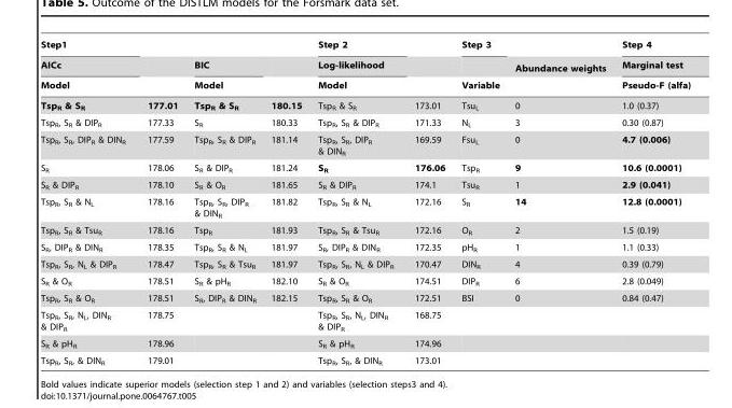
<table><thead><tr><td rowspan="3">Step1 AICc Model</td><td rowspan="3"></td><td rowspan="3">BIC Model</td><td rowspan="3"></td><td rowspan="3">Step 2 Log-likelihood Model</td><td rowspan="3"></td><td rowspan="3">Step 3 Variable</td><td rowspan="3">Abundance weights</td><td rowspan="3">Step 4 Marginal test Pseudo-F (alfa)</td></tr><tr></tr><tr></tr></thead><tbody><tr><td>TspR &amp; SR</td><td>177.01</td><td>Tsp<sub>R</sub> &amp; S<sub>R</sub></td><td>180.15</td><td>Tsp<sub>R</sub> &amp; S<sub>R</sub></td><td>173.01</td><td>Tsu<sub>L</sub></td><td>0</td><td>1.0 (0.37)</td></tr><tr><td>Tsp<sub>R</sub>, S<sub>R</sub> &amp; DIP<sub>R</sub></td><td>177.33</td><td>S<sub>R</sub></td><td>180.33</td><td>Tsp<sub>R</sub>, S<sub>R</sub> &amp; DIP<sub>R</sub></td><td>171.33</td><td>N<sub>L</sub></td><td>3</td><td>0.30 (0.87)</td></tr><tr><td>Tsp<sub>R</sub>, S<sub>R</sub>, DIP<sub>R</sub> &amp; DIN<sub>R</sub></td><td>177.59</td><td>Tsp<sub>R</sub>, S<sub>R</sub> &amp; DIP<sub>R</sub></td><td>181.14</td><td>Tsp<sub>R</sub>, S<sub>R</sub>, DIP<sub>R</sub> &amp; DIN<sub>R</sub></td><td>169.59</td><td>Fsu<sub>L</sub></td><td>0</td><td>4.7 (0.006)</td></tr><tr><td>S<sub>R</sub></td><td>178.06</td><td>S<sub>R</sub> &amp; DIP<sub>R</sub></td><td>181.24</td><td>S<sub>R</sub></td><td>176.06</td><td>Tsp<sub>R</sub></td><td>9</td><td>10.6 (0.0001)</td></tr><tr><td>S<sub>R</sub> &amp; DIP<sub>R</sub></td><td>178.10</td><td>S<sub>R</sub> &amp; O<sub>R</sub></td><td>181.65</td><td>S<sub>R</sub> &amp; DIP<sub>R</sub></td><td>174.1</td><td>Tsu<sub>R</sub></td><td>1</td><td>2.9 (0.041)</td></tr><tr><td>Tsp<sub>R</sub>, S<sub>R</sub> &amp; N<sub>L</sub></td><td>178.16</td><td>Tsp<sub>R</sub>, S<sub>R</sub>, DIP<sub>R</sub> &amp; DIN<sub>R</sub></td><td>181.82</td><td>Tsp<sub>R</sub>, S<sub>R</sub> &amp; N<sub>L</sub></td><td>172.16</td><td>S<sub>R</sub></td><td>14</td><td>12.8 (0.0001)</td></tr><tr><td>Tsp<sub>R</sub>, S<sub>R</sub> &amp; Tsu<sub>R</sub></td><td>178.16</td><td>Tsp<sub>R</sub></td><td>181.93</td><td>Tsp<sub>R</sub>, S<sub>R</sub> &amp; Tsu<sub>R</sub></td><td>172.16</td><td>O<sub>R</sub></td><td>2</td><td>1.5 (0.19)</td></tr><tr><td>S<sub>R</sub>, DIP<sub>R</sub> &amp; DIN<sub>R</sub></td><td>178.35</td><td>Tsp<sub>R</sub>, S<sub>R</sub> &amp; N<sub>L</sub></td><td>181.97</td><td>S<sub>R</sub>, DIP<sub>R</sub> &amp; DIN<sub>R</sub></td><td>172.35</td><td>pH<sub>R</sub></td><td>1</td><td>1.1 (0.33)</td></tr><tr><td>Tsp<sub>R</sub>, S<sub>R</sub>, N<sub>L</sub> &amp; DIP<sub>R</sub></td><td>178.47</td><td>Tsp<sub>R</sub>, S<sub>R</sub> &amp; Tsu<sub>R</sub></td><td>181.97</td><td>Tsp<sub>R</sub>, S<sub>R</sub>, N<sub>L</sub> &amp; DIP<sub>R</sub></td><td>170.47</td><td>DIN<sub>R</sub></td><td>4</td><td>0.39 (0.79)</td></tr><tr><td>S<sub>R</sub> &amp; O<sub>R</sub></td><td>178.51</td><td>S<sub>R</sub> &amp; pH<sub>R</sub></td><td>182.10</td><td>S<sub>R</sub> &amp; O<sub>R</sub></td><td>174.51</td><td>DIP<sub>R</sub></td><td>6</td><td>2.8 (0.049)</td></tr><tr><td>Tsp<sub>R</sub>, S<sub>R</sub> &amp; O<sub>R</sub></td><td>178.51</td><td>S<sub>R</sub>, DIP<sub>R</sub> &amp; DIN<sub>R</sub></td><td>182.15</td><td>Tsp<sub>R</sub>, S<sub>R</sub> &amp; O<sub>R</sub></td><td>172.51</td><td>BSI</td><td>0</td><td>0.84 (0.47)</td></tr><tr><td>Tsp<sub>R</sub>, S<sub>R</sub>, N<sub>L</sub>, DIN<sub>R</sub> &amp; DIP<sub>R</sub></td><td>178.75</td><td></td><td></td><td>Tsp<sub>R</sub>, S<sub>R</sub>, N<sub>L</sub>, DIN<sub>R</sub> &amp; DIP<sub>R</sub></td><td>168.75</td><td></td><td></td><td></td></tr><tr><td>S<sub>R</sub> &amp; pH<sub>R</sub></td><td>178.96</td><td></td><td></td><td>S<sub>R</sub> &amp; pH<sub>R</sub></td><td>174.96</td><td></td><td></td><td></td></tr><tr><td>Tsp<sub>R</sub>, S<sub>R</sub>, &amp; DIN<sub>R</sub></td><td>179.01</td><td></td><td></td><td>Tsp<sub>R</sub>, S<sub>R</sub>, &amp; DIN<sub>R</sub></td><td>173.01</td><td></td><td></td><td></td></tr></tbody></table>